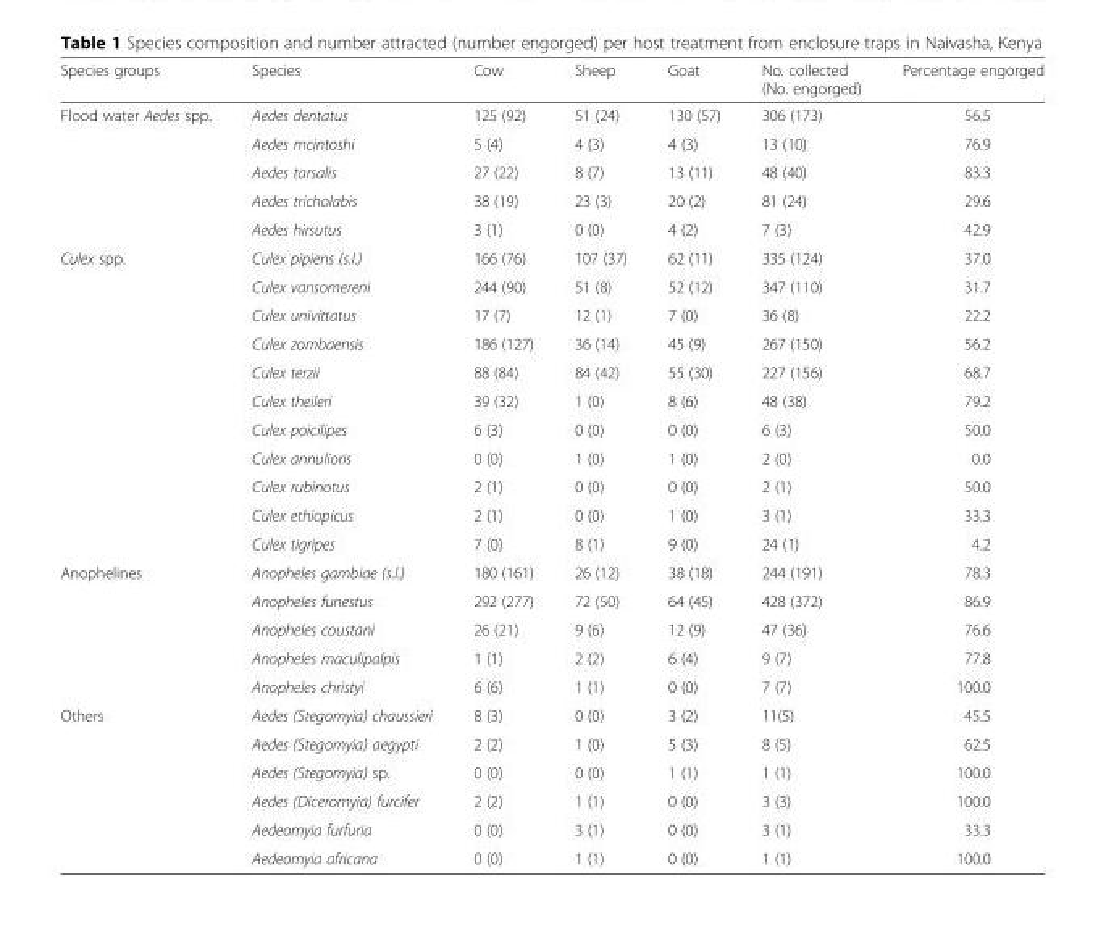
<table><thead><tr><td>Species groups</td><td>Species</td><td>Cow</td><td>Sheep</td><td>Goat</td><td>No. collected (No. engorged)</td><td>Percentage engorged</td></tr></thead><tbody><tr><td rowspan="5">Flood water Aedes spp.</td><td>Aedes dentatus</td><td>125 (92)</td><td>51 (24)</td><td>130 (57)</td><td>306 (173)</td><td>56.5</td></tr><tr><td>Aedes mcintoshi</td><td>5 (4)</td><td>4 (3)</td><td>4 (3)</td><td>13 (10)</td><td>76.9</td></tr><tr><td>Aedes tarsalis</td><td>27 (22)</td><td>8 (7)</td><td>13 (11)</td><td>48 (40)</td><td>83.3</td></tr><tr><td>Aedes tricholabis</td><td>38 (19)</td><td>23 (3)</td><td>20 (2)</td><td>81 (24)</td><td>29.6</td></tr><tr><td>Aedes hirsutus</td><td>3 (1)</td><td>0 (0)</td><td>4 (2)</td><td>7 (3)</td><td>42.9</td></tr><tr><td rowspan="11">Culex spp.</td><td>Culex pipiens (s.l.)</td><td>166 (76)</td><td>107 (37)</td><td>62 (11)</td><td>335 (124)</td><td>37.0</td></tr><tr><td>Culex vansomereni</td><td>244 (90)</td><td>51 (8)</td><td>52 (12)</td><td>347 (110)</td><td>31.7</td></tr><tr><td>Culex univittatus</td><td>17 (7)</td><td>12 (1)</td><td>7 (0)</td><td>36 (8)</td><td>22.2</td></tr><tr><td>Culex zombaensis</td><td>186 (127)</td><td>36 (14)</td><td>45 (9)</td><td>267 (150)</td><td>56.2</td></tr><tr><td>Culex terzii</td><td>88 (84)</td><td>84 (42)</td><td>55 (30)</td><td>227 (156)</td><td>68.7</td></tr><tr><td>Culex theileri</td><td>39 (32)</td><td>1 (0)</td><td>8 (6)</td><td>48 (38)</td><td>79.2</td></tr><tr><td>Culex poicilipes</td><td>6 (3)</td><td>0 (0)</td><td>0 (0)</td><td>6 (3)</td><td>50.0</td></tr><tr><td>Culex annulioris</td><td>0 (0)</td><td>1 (0)</td><td>1 (0)</td><td>2 (0)</td><td>0.0</td></tr><tr><td>Culex rubinotus</td><td>2 (1)</td><td>0 (0)</td><td>0 (0)</td><td>2 (1)</td><td>50.0</td></tr><tr><td>Culex ethiopicus</td><td>2 (1)</td><td>0 (0)</td><td>1 (0)</td><td>3 (1)</td><td>33.3</td></tr><tr><td>Culex tigripes</td><td>7 (0)</td><td>8 (1)</td><td>9 (0)</td><td>24 (1)</td><td>4.2</td></tr><tr><td rowspan="5">Anophelines</td><td>Anopheles gambiae (s.l.)</td><td>180 (161)</td><td>26 (12)</td><td>38 (18)</td><td>244 (191)</td><td>78.3</td></tr><tr><td>Anopheles funestus</td><td>292 (277)</td><td>72 (50)</td><td>64 (45)</td><td>428 (372)</td><td>86.9</td></tr><tr><td>Anopheles coustani</td><td>26 (21)</td><td>9 (6)</td><td>12 (9)</td><td>47 (36)</td><td>76.6</td></tr><tr><td>Anopheles maculipalpis</td><td>1 (1)</td><td>2 (2)</td><td>6 (4)</td><td>9 (7)</td><td>77.8</td></tr><tr><td>Anopheles christyi</td><td>6 (6)</td><td>1 (1)</td><td>0 (0)</td><td>7 (7)</td><td>100.0</td></tr><tr><td rowspan="6">Others</td><td>Aedes (Stegomyia) chaussieri</td><td>8 (3)</td><td>0 (0)</td><td>3 (2)</td><td>11(5)</td><td>45.5</td></tr><tr><td>Aedes (Stegomyia) aegypti</td><td>2 (2)</td><td>1 (0)</td><td>5 (3)</td><td>8 (5)</td><td>62.5</td></tr><tr><td>Aedes (Stegomyia) sp.</td><td>0 (0)</td><td>0 (0)</td><td>1 (1)</td><td>1 (1)</td><td>100.0</td></tr><tr><td>Aedes (Diceromyia) furcifer</td><td>2 (2)</td><td>1 (1)</td><td>0 (0)</td><td>3 (3)</td><td>100.0</td></tr><tr><td>Aedeomyia furfuria</td><td>0 (0)</td><td>3 (1)</td><td>0 (0)</td><td>3 (1)</td><td>33.3</td></tr><tr><td>Aedeomyia africana</td><td>0 (0)</td><td>1 (1)</td><td>0 (0)</td><td>1 (1)</td><td>100.0</td></tr></tbody></table>